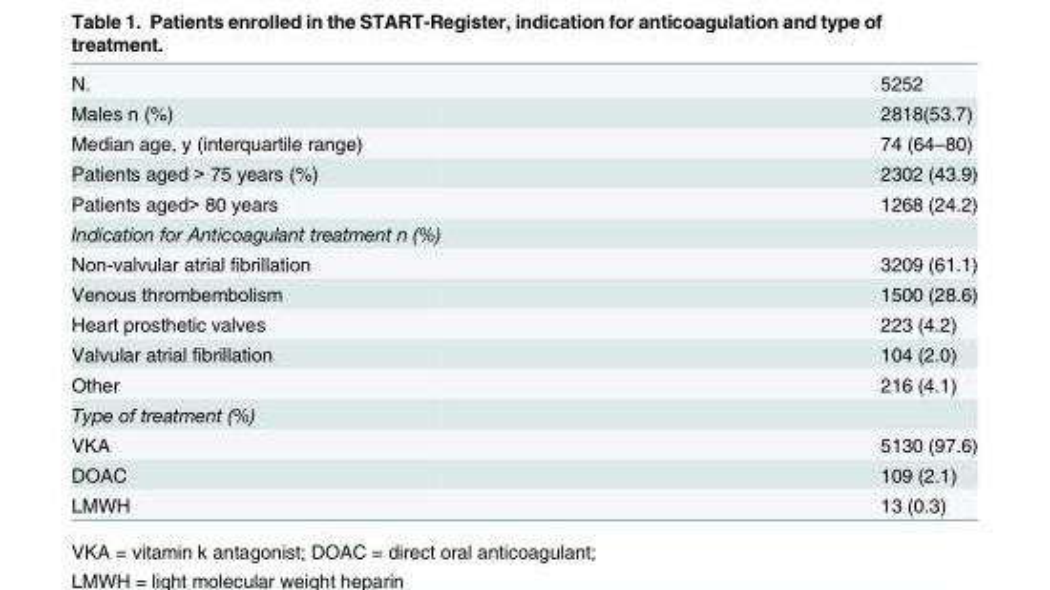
<table><tbody><tr><td>N.</td><td>5252</td></tr><tr><td>Males n (%)</td><td>2818(53.7)</td></tr><tr><td>Median age, y (interquartile range)</td><td>74 (64–80)</td></tr><tr><td>Patients aged &gt; 75 years (%)</td><td>2302 (43.9)</td></tr><tr><td>Patients aged&gt; 80 years</td><td>1268 (24.2)</td></tr><tr><td colspan="2">Indication for Anticoagulant treatment n (%)</td></tr><tr><td>Non-valvular atrial fibrillation</td><td>3209 (61.1)</td></tr><tr><td>Venous thrombembolism</td><td>1500 (28.6)</td></tr><tr><td>Heart prosthetic valves</td><td>223 (4.2)</td></tr><tr><td>Valvular atrial fibrillation</td><td>104 (2.0)</td></tr><tr><td>Other</td><td>216 (4.1)</td></tr><tr><td colspan="2">Type of treatment (%)</td></tr><tr><td>VKA</td><td>5130 (97.6)</td></tr><tr><td>DOAC</td><td>109 (2.1)</td></tr><tr><td>LMWH</td><td>13 (0.3)</td></tr></tbody></table>